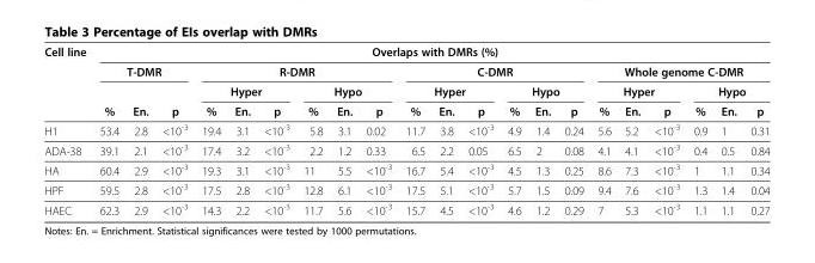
<table><thead><tr><td rowspan="4">Cell line</td><td colspan="21">Overlaps with DMRs (%)</td></tr><tr><td colspan="3">T-DMR</td><td colspan="6">R-DMR</td><td colspan="6">C-DMR</td><td colspan="6">Whole genome C-DMR</td></tr><tr><td rowspan="2">%</td><td rowspan="2">En.</td><td rowspan="2">p</td><td colspan="3">Hyper</td><td colspan="3">Hypo</td><td colspan="3">Hyper</td><td colspan="3">Hypo</td><td colspan="3">Hyper</td><td colspan="3">Hypo</td></tr><tr><td>%</td><td>En.</td><td>p</td><td>%</td><td>En.</td><td>p</td><td>%</td><td>En.</td><td>p</td><td>%</td><td>En.</td><td>p</td><td>%</td><td>En.</td><td>p</td><td>%</td><td>En.</td><td>p</td></tr></thead><tbody><tr><td>H1</td><td>53.4</td><td>2.8</td><td>&lt;10<sup>-3</sup></td><td>19.4</td><td>3.1</td><td>&lt;10<sup>-3</sup></td><td>5.8</td><td>3.1</td><td>0.02</td><td>11.7</td><td>3.8</td><td>&lt;10<sup>-3</sup></td><td>4.9</td><td>1.4</td><td>0.24</td><td>5.6</td><td>5.2</td><td>&lt;10<sup>-3</sup></td><td>0.9</td><td>1</td><td>0.31</td></tr><tr><td>ADA-38</td><td>39.1</td><td>2.1</td><td>&lt;10<sup>-3</sup></td><td>17.4</td><td>3.2</td><td>&lt;10<sup>-3</sup></td><td>2.2</td><td>1.2</td><td>0.33</td><td>6.5</td><td>2.2</td><td>0.05</td><td>6.5</td><td>2</td><td>0.08</td><td>4.1</td><td>4.1</td><td>&lt;10<sup>-3</sup></td><td>0.4</td><td>0.5</td><td>0.84</td></tr><tr><td>HA</td><td>60.4</td><td>2.9</td><td>&lt;10<sup>-3</sup></td><td>19.3</td><td>3.1</td><td>&lt;10<sup>-3</sup></td><td>11</td><td>5.5</td><td>&lt;10<sup>-3</sup></td><td>16.7</td><td>5.4</td><td>&lt;10<sup>-3</sup></td><td>4.5</td><td>1.3</td><td>0.25</td><td>8.6</td><td>7.3</td><td>&lt;10<sup>-3</sup></td><td>1</td><td>1.1</td><td>0.34</td></tr><tr><td>HPF</td><td>59.5</td><td>2.8</td><td>&lt;10<sup>-3</sup></td><td>17.5</td><td>2.8</td><td>&lt;10<sup>-3</sup></td><td>12.8</td><td>6.1</td><td>&lt;10<sup>-3</sup></td><td>17.5</td><td>5.1</td><td>&lt;10<sup>-3</sup></td><td>5.7</td><td>1.5</td><td>0.09</td><td>9.4</td><td>7.6</td><td>&lt;10<sup>-3</sup></td><td>1.3</td><td>1.4</td><td>0.04</td></tr><tr><td>HAEC</td><td>62.3</td><td>2.9</td><td>&lt;10<sup>-3</sup></td><td>14.3</td><td>2.2</td><td>&lt;10<sup>-3</sup></td><td>11.7</td><td>5.6</td><td>&lt;10<sup>-3</sup></td><td>15.7</td><td>4.5</td><td>&lt;10<sup>-3</sup></td><td>4.6</td><td>1.2</td><td>0.29</td><td>7</td><td>5.3</td><td>&lt;10<sup>-3</sup></td><td>1.1</td><td>1.1</td><td>0.27</td></tr></tbody></table>